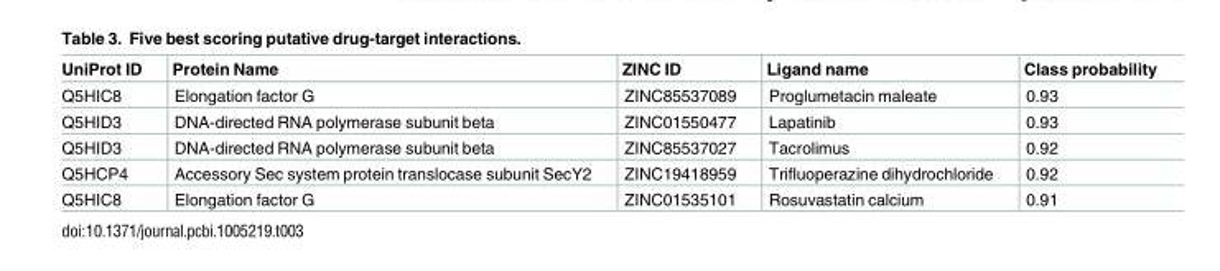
<table><thead><tr><td>UniProt ID</td><td>Protein Name</td><td>ZINC ID</td><td>Ligand name</td><td>Class probability</td></tr></thead><tbody><tr><td>Q5HIC8</td><td>Elongation factor G</td><td>ZINC85537089</td><td>Proglumetacin maleate</td><td>0.93</td></tr><tr><td>Q5HID3</td><td>DNA-directed RNA polymerase subunit beta</td><td>ZINC01550477</td><td>Lapatinib</td><td>0.93</td></tr><tr><td>Q5HID3</td><td>DNA-directed RNA polymerase subunit beta</td><td>ZINC85537027</td><td>Tacrolimus</td><td>0.92</td></tr><tr><td>Q5HCP4</td><td>Accessory Sec system protein translocase subunit SecY2</td><td>ZINC19418959</td><td>Trifluoperazine dihydrochloride</td><td>0.92</td></tr><tr><td>Q5HIC8</td><td>Elongation factor G</td><td>ZINC01535101</td><td>Rosuvastatin calcium</td><td>0.91</td></tr></tbody></table>